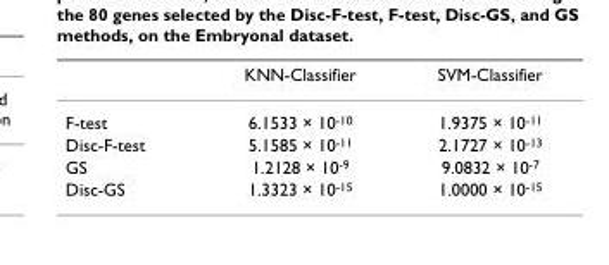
<table><thead><tr><td></td><td>KNN-Classifier</td><td>SVM-Classifier</td></tr></thead><tbody><tr><td>F-test</td><td>6.1533 × 10<sup>-10</sup></td><td>1.9375 × 10<sup>-11</sup></td></tr><tr><td>Disc-F-test</td><td>5.1585 × 10<sup>-11</sup></td><td>2.1727 × 10<sup>-13</sup></td></tr><tr><td>GS</td><td>1.2128 × 10<sup>-9</sup></td><td>9.0832 × 10<sup>-7</sup></td></tr><tr><td>Disc-GS</td><td>1.3323 × 10<sup>-15</sup></td><td>1.0000 × 10<sup>-15</sup></td></tr></tbody></table>